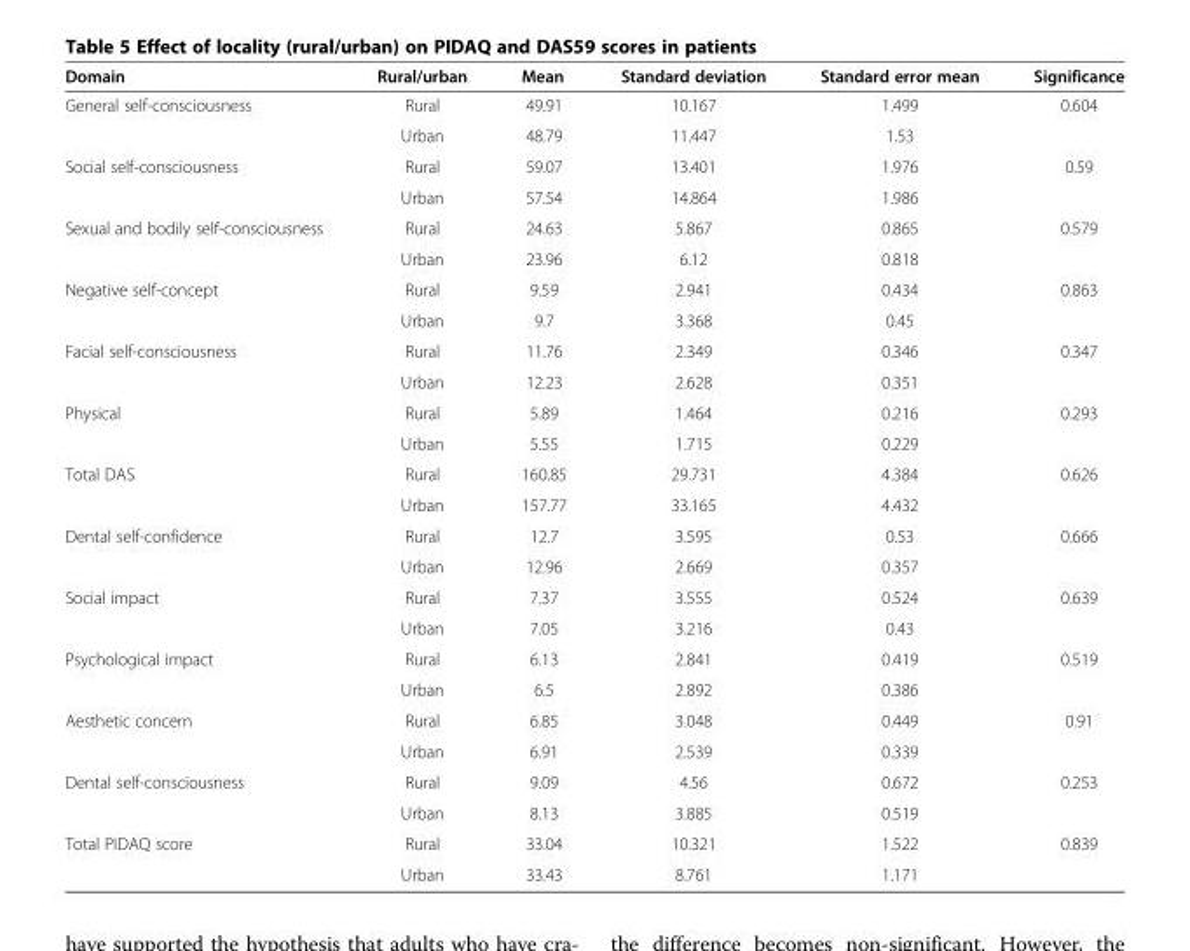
<table><thead><tr><td>Domain</td><td>Rural/urban</td><td>Mean</td><td>Standard deviation</td><td>Standard error mean</td><td>Significance</td></tr></thead><tbody><tr><td rowspan="2">General self-consciousness</td><td>Rural</td><td>49.91</td><td>10.167</td><td>1.499</td><td rowspan="2">0.604</td></tr><tr><td>Urban</td><td>48.79</td><td>11.447</td><td>1.53</td></tr><tr><td rowspan="2">Social self-consciousness</td><td>Rural</td><td>59.07</td><td>13.401</td><td>1.976</td><td rowspan="2">0.59</td></tr><tr><td>Urban</td><td>57.54</td><td>14.864</td><td>1.986</td></tr><tr><td rowspan="2">Sexual and bodily self-consciousness</td><td>Rural</td><td>24.63</td><td>5.867</td><td>0.865</td><td rowspan="2">0.579</td></tr><tr><td>Urban</td><td>23.96</td><td>6.12</td><td>0.818</td></tr><tr><td rowspan="2">Negative self-concept</td><td>Rural</td><td>9.59</td><td>2.941</td><td>0.434</td><td rowspan="2">0.863</td></tr><tr><td>Urban</td><td>9.7</td><td>3.368</td><td>0.45</td></tr><tr><td rowspan="2">Facial self-consciousness</td><td>Rural</td><td>11.76</td><td>2.349</td><td>0.346</td><td rowspan="2">0.347</td></tr><tr><td>Urban</td><td>12.23</td><td>2.628</td><td>0.351</td></tr><tr><td rowspan="2">Physical</td><td>Rural</td><td>5.89</td><td>1.464</td><td>0.216</td><td rowspan="2">0.293</td></tr><tr><td>Urban</td><td>5.55</td><td>1.715</td><td>0.229</td></tr><tr><td rowspan="2">Total DAS</td><td>Rural</td><td>160.85</td><td>29.731</td><td>4.384</td><td rowspan="2">0.626</td></tr><tr><td>Urban</td><td>157.77</td><td>33.165</td><td>4.432</td></tr><tr><td rowspan="2">Dental self-confidence</td><td>Rural</td><td>12.7</td><td>3.595</td><td>0.53</td><td rowspan="2">0.666</td></tr><tr><td>Urban</td><td>12.96</td><td>2.669</td><td>0.357</td></tr><tr><td rowspan="2">Social impact</td><td>Rural</td><td>7.37</td><td>3.555</td><td>0.524</td><td rowspan="2">0.639</td></tr><tr><td>Urban</td><td>7.05</td><td>3.216</td><td>0.43</td></tr><tr><td rowspan="2">Psychological impact</td><td>Rural</td><td>6.13</td><td>2.841</td><td>0.419</td><td rowspan="2">0.519</td></tr><tr><td>Urban</td><td>6.5</td><td>2.892</td><td>0.386</td></tr><tr><td rowspan="2">Aesthetic concern</td><td>Rural</td><td>6.85</td><td>3.048</td><td>0.449</td><td rowspan="2">0.91</td></tr><tr><td>Urban</td><td>6.91</td><td>2.539</td><td>0.339</td></tr><tr><td rowspan="2">Dental self-consciousness</td><td>Rural</td><td>9.09</td><td>4.56</td><td>0.672</td><td rowspan="2">0.253</td></tr><tr><td>Urban</td><td>8.13</td><td>3.885</td><td>0.519</td></tr><tr><td rowspan="2">Total PIDAQ score</td><td>Rural</td><td>33.04</td><td>10.321</td><td>1.522</td><td rowspan="2">0.839</td></tr><tr><td>Urban</td><td>33.43</td><td>8.761</td><td>1.171</td></tr></tbody></table>